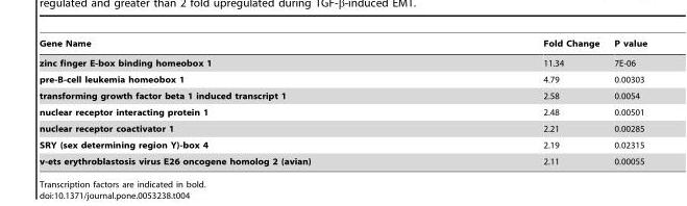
<table><thead><tr><td>Gene Name</td><td>Fold Change</td><td>P value</td></tr></thead><tbody><tr><td>zinc finger E-box binding homeobox 1</td><td>11.34</td><td>7E-06</td></tr><tr><td>pre-B-cell leukemia homeobox 1</td><td>4.79</td><td>0.00303</td></tr><tr><td>transforming growth factor beta 1 induced transcript 1</td><td>2.58</td><td>0.0054</td></tr><tr><td>nuclear receptor interacting protein 1</td><td>2.48</td><td>0.00501</td></tr><tr><td>nuclear receptor coactivator 1</td><td>2.21</td><td>0.00285</td></tr><tr><td>SRY (sex determining region Y)-box 4</td><td>2.19</td><td>0.02315</td></tr><tr><td>v-ets erythroblastosis virus E26 oncogene homolog 2 (avian)</td><td>2.11</td><td>0.00055</td></tr></tbody></table>